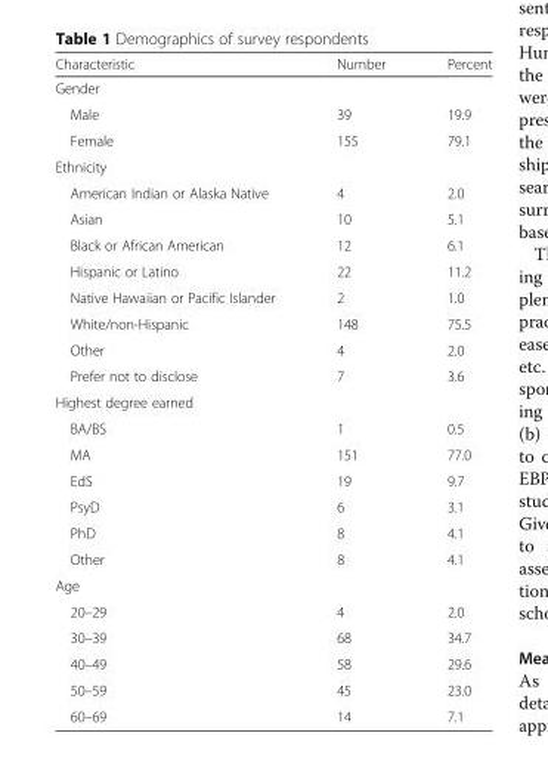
<table><thead><tr><td>Characteristic</td><td>Number</td><td>Percent</td></tr></thead><tbody><tr><td colspan="3">Gender</td></tr><tr><td>Male</td><td>39</td><td>19.9</td></tr><tr><td>Female</td><td>155</td><td>79.1</td></tr><tr><td colspan="3">Ethnicity</td></tr><tr><td>American Indian or Alaska Native</td><td>4</td><td>2.0</td></tr><tr><td>Asian</td><td>10</td><td>5.1</td></tr><tr><td>Black or African American</td><td>12</td><td>6.1</td></tr><tr><td>Hispanic or Latino</td><td>22</td><td>11.2</td></tr><tr><td>Native Hawaiian or Pacific Islander</td><td>2</td><td>1.0</td></tr><tr><td>White/non-Hispanic</td><td>148</td><td>75.5</td></tr><tr><td>Other</td><td>4</td><td>2.0</td></tr><tr><td>Prefer not to disclose</td><td>7</td><td>3.6</td></tr><tr><td colspan="3">Highest degree earned</td></tr><tr><td>BA/BS</td><td>1</td><td>0.5</td></tr><tr><td>MA</td><td>151</td><td>77.0</td></tr><tr><td>EdS</td><td>19</td><td>9.7</td></tr><tr><td>PsyD</td><td>6</td><td>3.1</td></tr><tr><td>PhD</td><td>8</td><td>4.1</td></tr><tr><td>Other</td><td>8</td><td>4.1</td></tr><tr><td colspan="3">Age</td></tr><tr><td>20–29</td><td>4</td><td>2.0</td></tr><tr><td>30–39</td><td>68</td><td>34.7</td></tr><tr><td>40–49</td><td>58</td><td>29.6</td></tr><tr><td>50–59</td><td>45</td><td>23.0</td></tr><tr><td>60–69</td><td>14</td><td>7.1</td></tr></tbody></table>